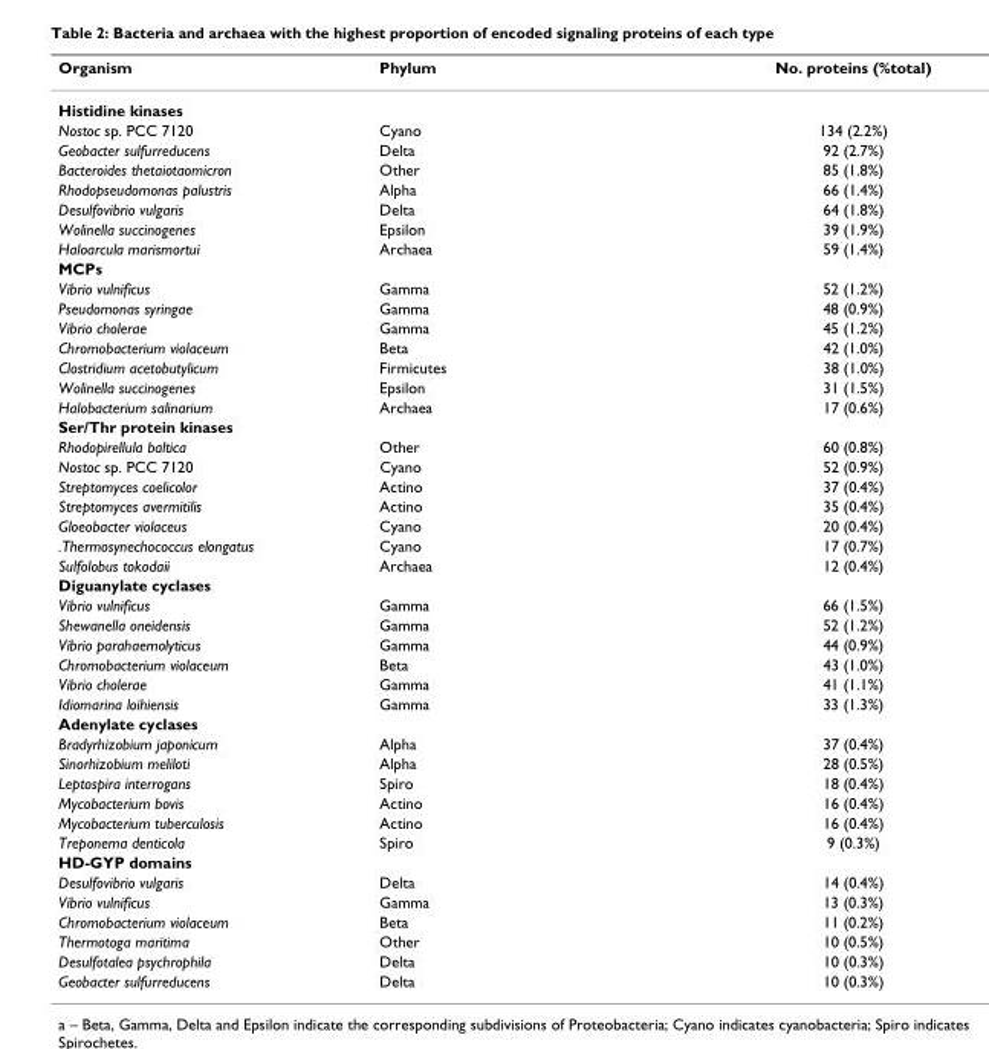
<table><thead><tr><td>Organism</td><td>Phylum</td><td>No. proteins (%total)</td></tr></thead><tbody><tr><td colspan="3">Histidine kinases</td></tr><tr><td>Nostoc sp. PCC 7120</td><td>Cyano</td><td>134 (2.2%)</td></tr><tr><td>Geobacter sulfurreducens</td><td>Delta</td><td>92 (2.7%)</td></tr><tr><td>Bacteroides thetaiotaomicron</td><td>Other</td><td>85 (1.8%)</td></tr><tr><td>Rhodopseudomonas palustris</td><td>Alpha</td><td>66 (1.4%)</td></tr><tr><td>Desulfovibrio vulgaris</td><td>Delta</td><td>64 (1.8%)</td></tr><tr><td>Wolinella succinogenes</td><td>Epsilon</td><td>39 (1.9%)</td></tr><tr><td>Haloarcula marismortui</td><td>Archaea</td><td>59 (1.4%)</td></tr><tr><td colspan="3">MCPs</td></tr><tr><td>Vibrio vulnificus</td><td>Gamma</td><td>52 (1.2%)</td></tr><tr><td>Pseudomonas syringae</td><td>Gamma</td><td>48 (0.9%)</td></tr><tr><td>Vibrio cholerae</td><td>Gamma</td><td>45 (1.2%)</td></tr><tr><td>Chromobacterium violaceum</td><td>Beta</td><td>42 (1.0%)</td></tr><tr><td>Clostridium acetobutylicum</td><td>Firmicutes</td><td>38 (1.0%)</td></tr><tr><td>Wolinella succinogenes</td><td>Epsilon</td><td>31 (1.5%)</td></tr><tr><td>Halobacterium salinarium</td><td>Archaea</td><td>17 (0.6%)</td></tr><tr><td colspan="3">Ser/Thr protein kinases</td></tr><tr><td>Rhodopirellula baltica</td><td>Other</td><td>60 (0.8%)</td></tr><tr><td>Nostoc sp. PCC 7120</td><td>Cyano</td><td>52 (0.9%)</td></tr><tr><td>Streptomyces coelicolor</td><td>Actino</td><td>37 (0.4%)</td></tr><tr><td>Streptomyces avermitilis</td><td>Actino</td><td>35 (0.4%)</td></tr><tr><td>Gloeobacter violaceus</td><td>Cyano</td><td>20 (0.4%)</td></tr><tr><td>.Thermosynechococcus elongatus</td><td>Cyano</td><td>17 (0.7%)</td></tr><tr><td>Sulfolobus tokodaii</td><td>Archaea</td><td>12 (0.4%)</td></tr><tr><td colspan="3">Diguanylate cyclases</td></tr><tr><td>Vibrio vulnificus</td><td>Gamma</td><td>66 (1.5%)</td></tr><tr><td>Shewanella oneidensis</td><td>Gamma</td><td>52 (1.2%)</td></tr><tr><td>Vibrio parahaemolyticus</td><td>Gamma</td><td>44 (0.9%)</td></tr><tr><td>Chromobacterium violaceum</td><td>Beta</td><td>43 (1.0%)</td></tr><tr><td>Vibrio cholerae</td><td>Gamma</td><td>41 (1.1%)</td></tr><tr><td>Idiomarina loihiensis</td><td>Gamma</td><td>33 (1.3%)</td></tr><tr><td colspan="3">Adenylate cyclases</td></tr><tr><td>Bradyrhizobium japonicum</td><td>Alpha</td><td>37 (0.4%)</td></tr><tr><td>Sinorhizobium meliloti</td><td>Alpha</td><td>28 (0.5%)</td></tr><tr><td>Leptospira interrogans</td><td>Spiro</td><td>18 (0.4%)</td></tr><tr><td>Mycobacterium bovis</td><td>Actino</td><td>16 (0.4%)</td></tr><tr><td>Mycobacterium tuberculosis</td><td>Actino</td><td>16 (0.4%)</td></tr><tr><td>Treponema denticola</td><td>Spiro</td><td>9 (0.3%)</td></tr><tr><td colspan="3">HD-GYP domains</td></tr><tr><td>Desulfovibrio vulgaris</td><td>Delta</td><td>14 (0.4%)</td></tr><tr><td>Vibrio vulnificus</td><td>Gamma</td><td>13 (0.3%)</td></tr><tr><td>Chromobacterium violaceum</td><td>Beta</td><td>11 (0.2%)</td></tr><tr><td>Thermotoga maritima</td><td>Other</td><td>10 (0.5%)</td></tr><tr><td>Desulfotalea psychrophila</td><td>Delta</td><td>10 (0.3%)</td></tr><tr><td>Geobacter sulfurreducens</td><td>Delta</td><td>10 (0.3%)</td></tr></tbody></table>